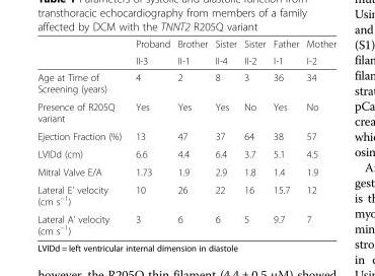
<table><thead><tr><td rowspan="2"></td><td rowspan="2">Proband II-3</td><td rowspan="2">Brother II-1</td><td rowspan="2">Sister II-4</td><td rowspan="2">Sister II-2</td><td rowspan="2">Father I-1</td><td rowspan="2">Mother I-2</td></tr><tr></tr></thead><tbody><tr><td>Age at Time of Screening (years)</td><td>4</td><td>2</td><td>8</td><td>3</td><td>36</td><td>34</td></tr><tr><td>Presence of R205Q variant</td><td>Yes</td><td>Yes</td><td>Yes</td><td>No</td><td>Yes</td><td>No</td></tr><tr><td>Ejection Fraction (%)</td><td>13</td><td>47</td><td>37</td><td>64</td><td>38</td><td>57</td></tr><tr><td>LVIDd (cm)</td><td>6.6</td><td>4.4</td><td>6.4</td><td>3.7</td><td>5.1</td><td>4.5</td></tr><tr><td>Mitral Valve E/A</td><td>1.73</td><td>1.9</td><td>2.9</td><td>1.8</td><td>1.4</td><td>1.9</td></tr><tr><td>Lateral E’ velocity (cm s<sup>−1</sup>)</td><td>10</td><td>26</td><td>22</td><td>16</td><td>15.7</td><td>12</td></tr><tr><td>Lateral A’ velocity (cm s<sup>−1</sup>)</td><td>3</td><td>6</td><td>6</td><td>5</td><td>9.7</td><td>7</td></tr></tbody></table>